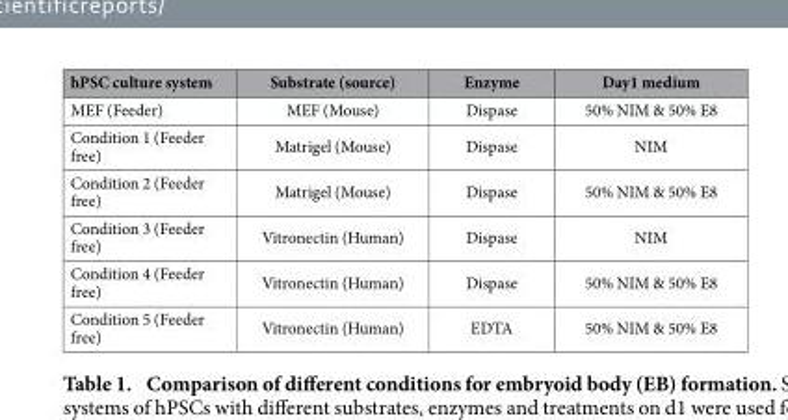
<table><thead><tr><td>hPSC culture system</td><td>Substrate (source)</td><td>Enzyme</td><td>Day1 medium</td></tr></thead><tbody><tr><td>MEF (Feeder)</td><td>MEF (Mouse)</td><td>Dispase</td><td>50% NIM &amp; 50% E8</td></tr><tr><td>Condition 1 (Feeder free)</td><td>Matrigel (Mouse)</td><td>Dispase</td><td>NIM</td></tr><tr><td>Condition 2 (Feeder free)</td><td>Matrigel (Mouse)</td><td>Dispase</td><td>50% NIM &amp; 50% E8</td></tr><tr><td>Condition 3 (Feeder free)</td><td>Vitronectin (Human)</td><td>Dispase</td><td>NIM</td></tr><tr><td>Condition 4 (Feeder free)</td><td>Vitronectin (Human)</td><td>Dispase</td><td>50% NIM &amp; 50% E8</td></tr><tr><td>Condition 5 (Feeder free)</td><td>Vitronectin (Human)</td><td>EDTA</td><td>50% NIM &amp; 50% E8</td></tr></tbody></table>